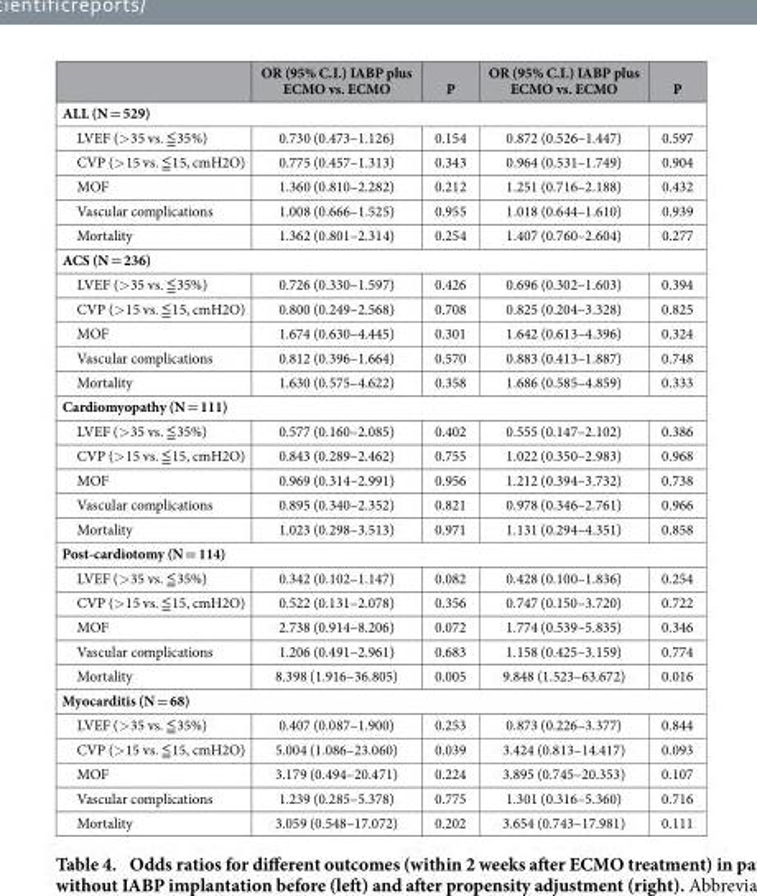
<table><thead><tr><td></td><td>OR (95% C.I.) IABP plus ECMO vs. ECMO</td><td>P</td><td>OR (95% C.I.) IABP plus ECMO vs. ECMO</td><td>P</td></tr></thead><tbody><tr><td colspan="5">ALL (N = 529)</td></tr><tr><td>LVEF (&gt; 35 vs. ≦ 35%)</td><td>0.730 (0.473–1.126)</td><td>0.154</td><td>0.872 (0.526–1.447)</td><td>0.597</td></tr><tr><td>CVP (&gt; 15 vs. ≦ 15, cmH2O)</td><td>0.775 (0.457–1.313)</td><td>0.343</td><td>0.964 (0.531–1.749)</td><td>0.904</td></tr><tr><td>MOF</td><td>1.360 (0.810–2.282)</td><td>0.212</td><td>1.251 (0.716–2.188)</td><td>0.432</td></tr><tr><td>Vascular complications</td><td>1.008 (0.666–1.525)</td><td>0.955</td><td>1.018 (0.644–1.610)</td><td>0.939</td></tr><tr><td>Mortality</td><td>1.362 (0.801–2.314)</td><td>0.254</td><td>1.407 (0.760–2.604)</td><td>0.277</td></tr><tr><td colspan="5">ACS (N = 236)</td></tr><tr><td>LVEF (&gt; 35 vs. ≦ 35%)</td><td>0.726 (0.330–1.597)</td><td>0.426</td><td>0.696 (0.302–1.603)</td><td>0.394</td></tr><tr><td>CVP (&gt; 15 vs. ≦ 15, cmH2O)</td><td>0.800 (0.249–2.568)</td><td>0.708</td><td>0.825 (0.204–3.328)</td><td>0.825</td></tr><tr><td>MOF</td><td>1.674 (0.630–4.445)</td><td>0.301</td><td>1.642 (0.613–4.396)</td><td>0.324</td></tr><tr><td>Vascular complications</td><td>0.812 (0.396–1.664)</td><td>0.570</td><td>0.883 (0.413–1.887)</td><td>0.748</td></tr><tr><td>Mortality</td><td>1.630 (0.575–4.622)</td><td>0.358</td><td>1.686 (0.585–4.859)</td><td>0.333</td></tr><tr><td colspan="5">Cardiomyopathy (N = 111)</td></tr><tr><td>LVEF (&gt; 35 vs. ≦ 35%)</td><td>0.577 (0.160–2.085)</td><td>0.402</td><td>0.555 (0.147–2.102)</td><td>0.386</td></tr><tr><td>CVP (&gt; 15 vs. ≦ 15, cmH2O)</td><td>0.843 (0.289–2.462)</td><td>0.755</td><td>1.022 (0.350–2.983)</td><td>0.968</td></tr><tr><td>MOF</td><td>0.969 (0.314–2.991)</td><td>0.956</td><td>1.212 (0.394–3.732)</td><td>0.738</td></tr><tr><td>Vascular complications</td><td>0.895 (0.340–2.352)</td><td>0.821</td><td>0.978 (0.346–2.761)</td><td>0.966</td></tr><tr><td>Mortality</td><td>1.023 (0.298–3.513)</td><td>0.971</td><td>1.131 (0.294–4.351)</td><td>0.858</td></tr><tr><td colspan="5">Post-cardiotomy (N = 114)</td></tr><tr><td>LVEF (&gt; 35 vs. ≦ 35%)</td><td>0.342 (0.102–1.147)</td><td>0.082</td><td>0.428 (0.100–1.836)</td><td>0.254</td></tr><tr><td>CVP (&gt; 15 vs. ≦ 15, cmH2O)</td><td>0.522 (0.131–2.078)</td><td>0.356</td><td>0.747 (0.150–3.720)</td><td>0.722</td></tr><tr><td>MOF</td><td>2.738 (0.914–8.206)</td><td>0.072</td><td>1.774 (0.539–5.835)</td><td>0.346</td></tr><tr><td>Vascular complications</td><td>1.206 (0.491–2.961)</td><td>0.683</td><td>1.158 (0.425–3.159)</td><td>0.774</td></tr><tr><td>Mortality</td><td>8.398 (1.916–36.805)</td><td>0.005</td><td>9.848 (1.523–63.672)</td><td>0.016</td></tr><tr><td colspan="5">Myocarditis (N = 68)</td></tr><tr><td>LVEF (&gt; 35 vs. ≦ 35%)</td><td>0.407 (0.087–1.900)</td><td>0.253</td><td>0.873 (0.226–3.377)</td><td>0.844</td></tr><tr><td>CVP (&gt; 15 vs. ≦ 15, cmH2O)</td><td>5.004 (1.086–23.060)</td><td>0.039</td><td>3.424 (0.813–14.417)</td><td>0.093</td></tr><tr><td>MOF</td><td>3.179 (0.494–20.471)</td><td>0.224</td><td>3.895 (0.745–20.353)</td><td>0.107</td></tr><tr><td>Vascular complications</td><td>1.239 (0.285–5.378)</td><td>0.775</td><td>1.301 (0.316–5.360)</td><td>0.716</td></tr><tr><td>Mortality</td><td>3.059 (0.548–17.072)</td><td>0.202</td><td>3.654 (0.743–17.981)</td><td>0.111</td></tr></tbody></table>